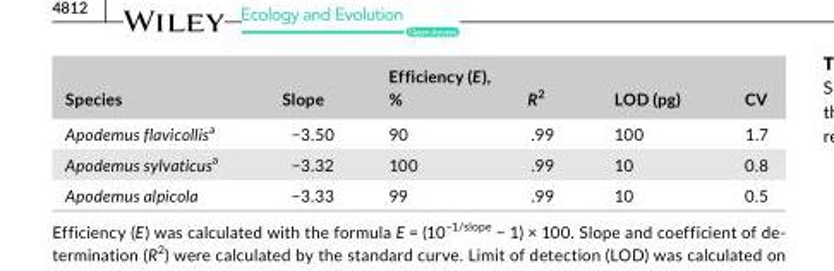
<table><thead><tr><td>Species</td><td>Slope</td><td>Efficiency (E), %</td><td>R<sup>2</sup></td><td>LOD (pg)</td><td>CV</td></tr></thead><tbody><tr><td>Apodemus flavicollisa</td><td>−3.50</td><td>90</td><td>.99</td><td>100</td><td>1.7</td></tr><tr><td>Apodemus sylvaticusa</td><td>−3.32</td><td>100</td><td>.99</td><td>10</td><td>0.8</td></tr><tr><td>Apodemus alpicola</td><td>−3.33</td><td>99</td><td>.99</td><td>10</td><td>0.5</td></tr></tbody></table>